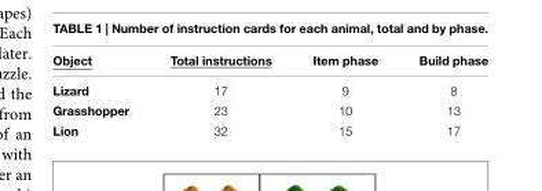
<table><thead><tr><td>Object</td><td>Total instructions</td><td>Item phase</td><td>Build phase</td></tr></thead><tbody><tr><td>Lizard</td><td>17</td><td>9</td><td>8</td></tr><tr><td>Grasshopper</td><td>23</td><td>10</td><td>13</td></tr><tr><td>Lion</td><td>32</td><td>15</td><td>17</td></tr></tbody></table>